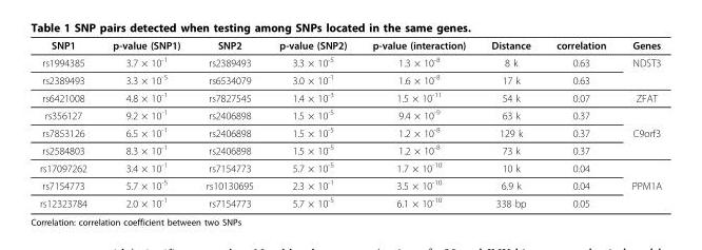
<table><thead><tr><td>SNP1</td><td>p-value (SNP1)</td><td>SNP2</td><td>p-value (SNP2)</td><td>p-value (interaction)</td><td>Distance</td><td>correlation</td><td>Genes</td></tr></thead><tbody><tr><td>rs1994385</td><td>3.7 × 10<sup>-1</sup></td><td>rs2389493</td><td>3.3 × 10<sup>-5</sup></td><td>1.3 × 10<sup>-8</sup></td><td>8 k</td><td>0.63</td><td>NDST3</td></tr><tr><td>rs2389493</td><td>3.3 × 10<sup>-5</sup></td><td>rs6534079</td><td>3.0 × 10<sup>-1</sup></td><td>1.6 × 10<sup>-8</sup></td><td>17 k</td><td>0.63</td><td></td></tr><tr><td>rs6421008</td><td>4.8 × 10<sup>-1</sup></td><td>rs7827545</td><td>1.4 × 10<sup>-3</sup></td><td>1.5 × 10<sup>-11</sup></td><td>54 k</td><td>0.07</td><td>ZFAT</td></tr><tr><td>rs356127</td><td>9.2 × 10<sup>-1</sup></td><td>rs2406898</td><td>1.5 × 10<sup>-5</sup></td><td>9.4 × 10<sup>-9</sup></td><td>63 k</td><td>0.37</td><td></td></tr><tr><td>rs7853126</td><td>6.5 × 10<sup>-1</sup></td><td>rs2406898</td><td>1.5 × 10<sup>-5</sup></td><td>1.2 × 10<sup>-8</sup></td><td>129 k</td><td>0.37</td><td>C9orf3</td></tr><tr><td>rs2584803</td><td>8.3 × 10<sup>-1</sup></td><td>rs2406898</td><td>1.5 × 10<sup>-5</sup></td><td>1.2 × 10<sup>-8</sup></td><td>73 k</td><td>0.37</td><td></td></tr><tr><td>rs17097262</td><td>3.4 × 10<sup>-1</sup></td><td>rs7154773</td><td>5.7 × 10<sup>-5</sup></td><td>1.7 × 10<sup>-10</sup></td><td>10 k</td><td>0.04</td><td></td></tr><tr><td>rs7154773</td><td>5.7 × 10<sup>-5</sup></td><td>rs10130695</td><td>2.3 × 10<sup>-1</sup></td><td>3.5 × 10<sup>-10</sup></td><td>6.9 k</td><td>0.04</td><td>PPM1A</td></tr><tr><td>rs12323784</td><td>2.0 × 10<sup>-1</sup></td><td>rs7154773</td><td>5.7 × 10<sup>-5</sup></td><td>6.1 × 10<sup>-10</sup></td><td>338 bp</td><td>0.05</td><td></td></tr></tbody></table>